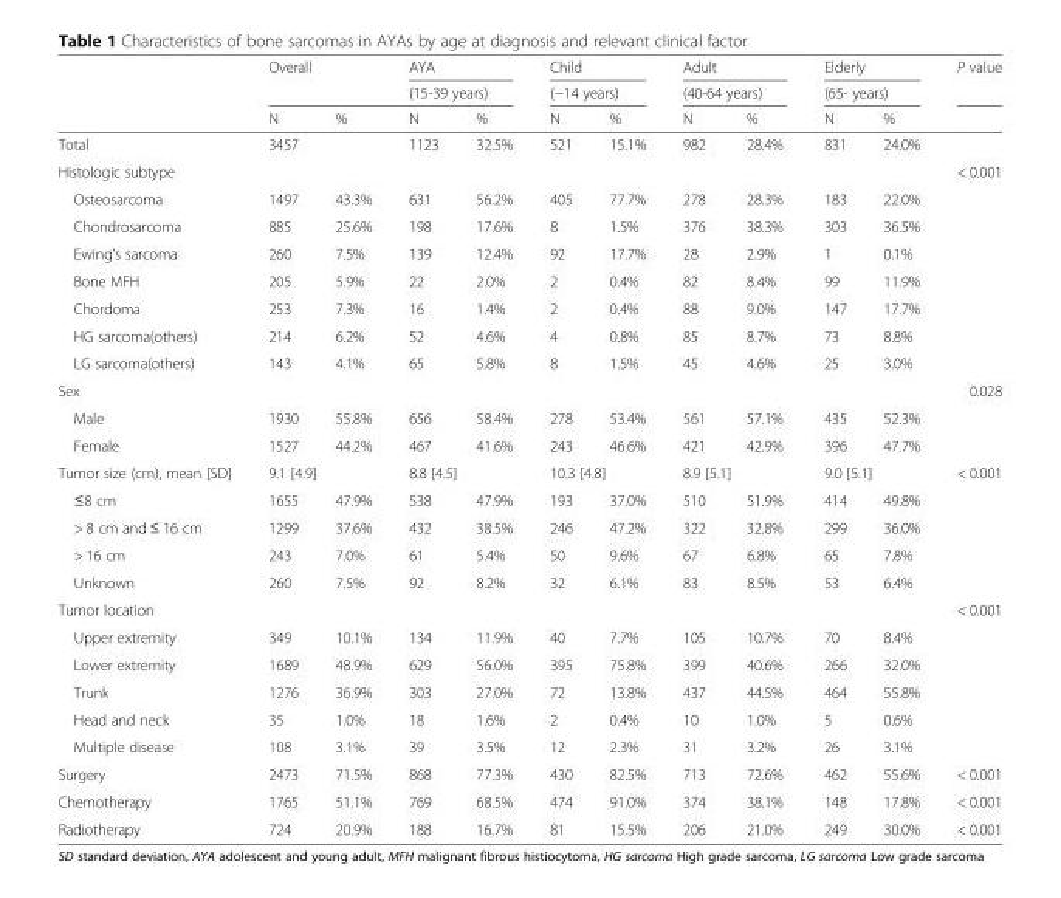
<table><thead><tr><td rowspan="3"></td><td rowspan="2" colspan="2">Overall</td><td rowspan="2" colspan="2">AYA (15-39 years)</td><td rowspan="2" colspan="2">Child (−14 years)</td><td rowspan="2" colspan="2">Adult (40-64 years)</td><td rowspan="2" colspan="2">Elderly (65- years)</td><td rowspan="3">P value</td></tr><tr></tr><tr><td>N</td><td>%</td><td>N</td><td>%</td><td>N</td><td>%</td><td>N</td><td>%</td><td>N</td><td>%</td></tr></thead><tbody><tr><td>Total</td><td>3457</td><td></td><td>1123</td><td>32.5%</td><td>521</td><td>15.1%</td><td>982</td><td>28.4%</td><td>831</td><td>24.0%</td><td></td></tr><tr><td>Histologic subtype</td><td></td><td></td><td></td><td></td><td></td><td></td><td></td><td></td><td></td><td></td><td>&lt; 0.001</td></tr><tr><td>Osteosarcoma</td><td>1497</td><td>43.3%</td><td>631</td><td>56.2%</td><td>405</td><td>77.7%</td><td>278</td><td>28.3%</td><td>183</td><td>22.0%</td><td></td></tr><tr><td>Chondrosarcoma</td><td>885</td><td>25.6%</td><td>198</td><td>17.6%</td><td>8</td><td>1.5%</td><td>376</td><td>38.3%</td><td>303</td><td>36.5%</td><td></td></tr><tr><td>Ewing’s sarcoma</td><td>260</td><td>7.5%</td><td>139</td><td>12.4%</td><td>92</td><td>17.7%</td><td>28</td><td>2.9%</td><td>1</td><td>0.1%</td><td></td></tr><tr><td>Bone MFH</td><td>205</td><td>5.9%</td><td>22</td><td>2.0%</td><td>2</td><td>0.4%</td><td>82</td><td>8.4%</td><td>99</td><td>11.9%</td><td></td></tr><tr><td>Chordoma</td><td>253</td><td>7.3%</td><td>16</td><td>1.4%</td><td>2</td><td>0.4%</td><td>88</td><td>9.0%</td><td>147</td><td>17.7%</td><td></td></tr><tr><td>HG sarcoma(others)</td><td>214</td><td>6.2%</td><td>52</td><td>4.6%</td><td>4</td><td>0.8%</td><td>85</td><td>8.7%</td><td>73</td><td>8.8%</td><td></td></tr><tr><td>LG sarcoma(others)</td><td>143</td><td>4.1%</td><td>65</td><td>5.8%</td><td>8</td><td>1.5%</td><td>45</td><td>4.6%</td><td>25</td><td>3.0%</td><td></td></tr><tr><td>Sex</td><td></td><td></td><td></td><td></td><td></td><td></td><td></td><td></td><td></td><td></td><td>0.028</td></tr><tr><td>Male</td><td>1930</td><td>55.8%</td><td>656</td><td>58.4%</td><td>278</td><td>53.4%</td><td>561</td><td>57.1%</td><td>435</td><td>52.3%</td><td></td></tr><tr><td>Female</td><td>1527</td><td>44.2%</td><td>467</td><td>41.6%</td><td>243</td><td>46.6%</td><td>421</td><td>42.9%</td><td>396</td><td>47.7%</td><td></td></tr><tr><td>Tumor size (cm), mean [SD]</td><td colspan="2">9.1 [4.9]</td><td colspan="2">8.8 [4.5]</td><td colspan="2">10.3 [4.8]</td><td colspan="2">8.9 [5.1]</td><td colspan="2">9.0 [5.1]</td><td>&lt; 0.001</td></tr><tr><td>≤8 cm</td><td>1655</td><td>47.9%</td><td>538</td><td>47.9%</td><td>193</td><td>37.0%</td><td>510</td><td>51.9%</td><td>414</td><td>49.8%</td><td></td></tr><tr><td>&gt; 8 cm and ≤ 16 cm</td><td>1299</td><td>37.6%</td><td>432</td><td>38.5%</td><td>246</td><td>47.2%</td><td>322</td><td>32.8%</td><td>299</td><td>36.0%</td><td></td></tr><tr><td>&gt; 16 cm</td><td>243</td><td>7.0%</td><td>61</td><td>5.4%</td><td>50</td><td>9.6%</td><td>67</td><td>6.8%</td><td>65</td><td>7.8%</td><td></td></tr><tr><td>Unknown</td><td>260</td><td>7.5%</td><td>92</td><td>8.2%</td><td>32</td><td>6.1%</td><td>83</td><td>8.5%</td><td>53</td><td>6.4%</td><td></td></tr><tr><td>Tumor location</td><td></td><td></td><td></td><td></td><td></td><td></td><td></td><td></td><td></td><td></td><td>&lt; 0.001</td></tr><tr><td>Upper extremity</td><td>349</td><td>10.1%</td><td>134</td><td>11.9%</td><td>40</td><td>7.7%</td><td>105</td><td>10.7%</td><td>70</td><td>8.4%</td><td></td></tr><tr><td>Lower extremity</td><td>1689</td><td>48.9%</td><td>629</td><td>56.0%</td><td>395</td><td>75.8%</td><td>399</td><td>40.6%</td><td>266</td><td>32.0%</td><td></td></tr><tr><td>Trunk</td><td>1276</td><td>36.9%</td><td>303</td><td>27.0%</td><td>72</td><td>13.8%</td><td>437</td><td>44.5%</td><td>464</td><td>55.8%</td><td></td></tr><tr><td>Head and neck</td><td>35</td><td>1.0%</td><td>18</td><td>1.6%</td><td>2</td><td>0.4%</td><td>10</td><td>1.0%</td><td>5</td><td>0.6%</td><td></td></tr><tr><td>Multiple disease</td><td>108</td><td>3.1%</td><td>39</td><td>3.5%</td><td>12</td><td>2.3%</td><td>31</td><td>3.2%</td><td>26</td><td>3.1%</td><td></td></tr><tr><td>Surgery</td><td>2473</td><td>71.5%</td><td>868</td><td>77.3%</td><td>430</td><td>82.5%</td><td>713</td><td>72.6%</td><td>462</td><td>55.6%</td><td>&lt; 0.001</td></tr><tr><td>Chemotherapy</td><td>1765</td><td>51.1%</td><td>769</td><td>68.5%</td><td>474</td><td>91.0%</td><td>374</td><td>38.1%</td><td>148</td><td>17.8%</td><td>&lt; 0.001</td></tr><tr><td>Radiotherapy</td><td>724</td><td>20.9%</td><td>188</td><td>16.7%</td><td>81</td><td>15.5%</td><td>206</td><td>21.0%</td><td>249</td><td>30.0%</td><td>&lt; 0.001</td></tr></tbody></table>